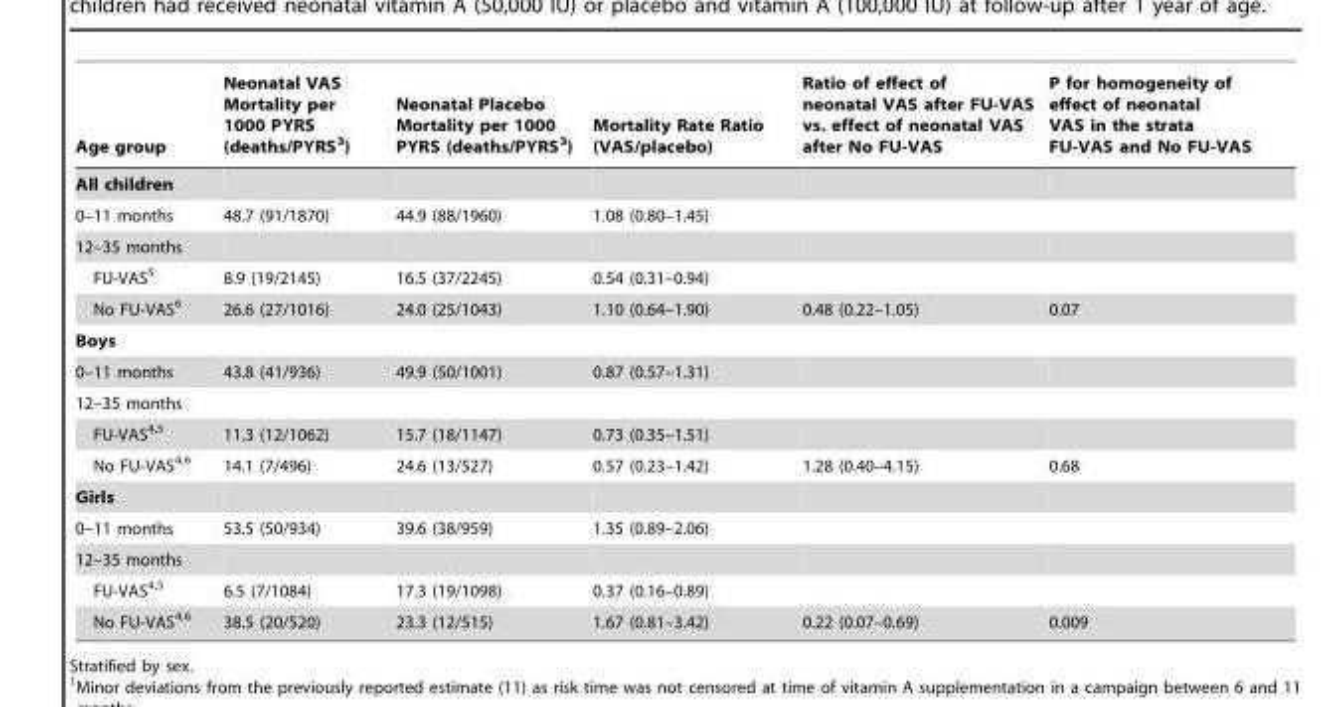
<table><thead><tr><td>Age group</td><td>Neonatal VAS Mortality per 1000 PYRS (deaths/PYRS<sup>3</sup>)</td><td>Neonatal Placebo Mortality per 1000 PYRS (deaths/PYRS<sup>3</sup>)</td><td>Mortality Rate Ratio (VAS/placebo)</td><td>Ratio of effect of neonatal VAS after FU-VAS vs. effect of neonatal VAS after No FU-VAS</td><td>P for homogeneity of effect of neonatal VAS in the strata FU-VAS and No FU-VAS</td></tr></thead><tbody><tr><td colspan="6">All children</td></tr><tr><td>0–11 months</td><td>48.7 (91/1870)</td><td>44.9 (88/1960)</td><td>1.08 (0.80–1.45)</td><td></td><td></td></tr><tr><td colspan="6">12–35 months</td></tr><tr><td>FU-VAS<sup>5</sup></td><td>8.9 (19/2145)</td><td>16.5 (37/2245)</td><td>0.54 (0.31–0.94)</td><td></td><td></td></tr><tr><td>No FU-VAS<sup>6</sup></td><td>26.6 (27/1016)</td><td>24.0 (25/1043)</td><td>1.10 (0.64–1.90)</td><td>0.48 (0.22–1.05)</td><td>0.07</td></tr><tr><td colspan="6">Boys</td></tr><tr><td>0–11 months</td><td>43.8 (41/936)</td><td>49.9 (50/1001)</td><td>0.87 (0.57–1.31)</td><td></td><td></td></tr><tr><td colspan="6">12–35 months</td></tr><tr><td>FU-VAS<sup>4,</sup>5</td><td>11.3 (12/1062)</td><td>15.7 (18/1147)</td><td>0.73 (0.35–1.51)</td><td></td><td></td></tr><tr><td>No FU-VAS<sup>4,</sup>6</td><td>14.1 (7/496)</td><td>24.6 (13/527)</td><td>0.57 (0.23–1.42)</td><td>1.28 (0.40–4.15)</td><td>0.68</td></tr><tr><td colspan="6">Girls</td></tr><tr><td>0–11 months</td><td>53.5 (50/934)</td><td>39.6 (38/959)</td><td>1.35 (0.89–2.06)</td><td></td><td></td></tr><tr><td colspan="6">12–35 months</td></tr><tr><td>FU-VAS<sup>4,</sup>5</td><td>6.5 (7/1084)</td><td>17.3 (19/1098)</td><td>0.37 (0.16–0.89)</td><td></td><td></td></tr><tr><td>No FU-VAS<sup>4,</sup>6</td><td>38.5 (20/520)</td><td>23.3 (12/515)</td><td>1.67 (0.81–3.42)</td><td>0.22 (0.07–0.69)</td><td>0.009</td></tr></tbody></table>